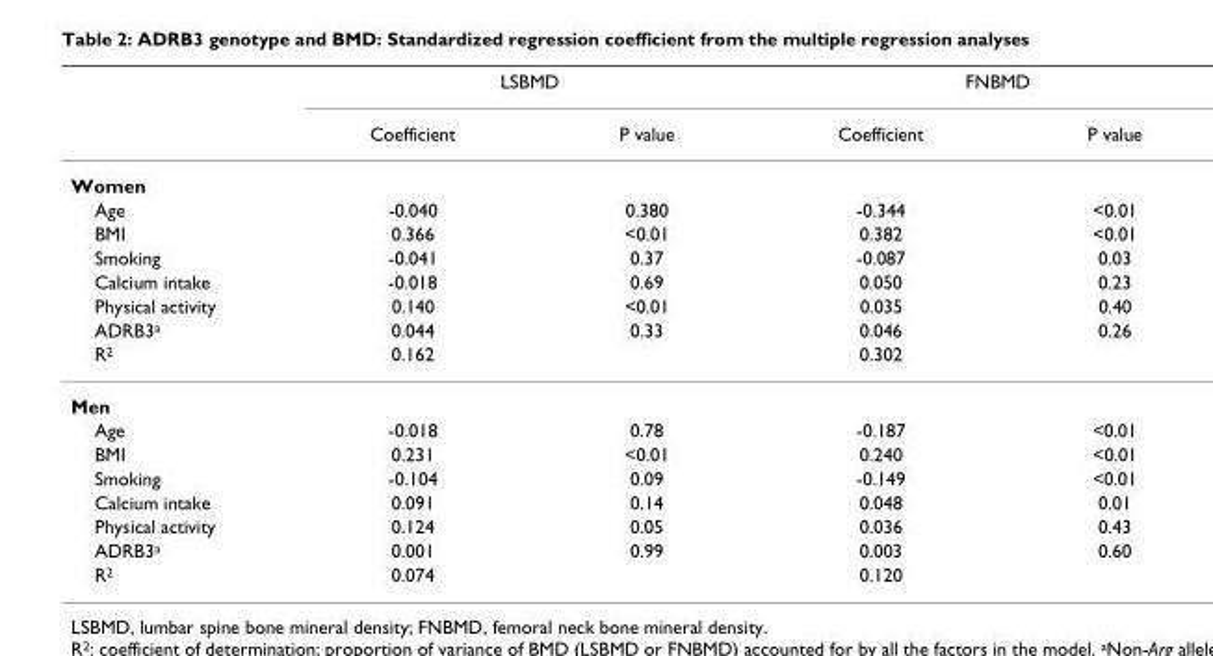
<table><thead><tr><td rowspan="2"></td><td colspan="2">LSBMD</td><td colspan="2">FNBMD</td></tr><tr><td>Coefficient</td><td>P value</td><td>Coefficient</td><td>P value</td></tr></thead><tbody><tr><td colspan="5">Women</td></tr><tr><td>Age</td><td>-0.040</td><td>0.380</td><td>-0.344</td><td>&lt;0.01</td></tr><tr><td>BMI</td><td>0.366</td><td>&lt;0.01</td><td>0.382</td><td>&lt;0.01</td></tr><tr><td>Smoking</td><td>-0.041</td><td>0.37</td><td>-0.087</td><td>0.03</td></tr><tr><td>Calcium intake</td><td>-0.018</td><td>0.69</td><td>0.050</td><td>0.23</td></tr><tr><td>Physical activity</td><td>0.140</td><td>&lt;0.01</td><td>0.035</td><td>0.40</td></tr><tr><td>ADRB3<sup>a</sup></td><td>0.044</td><td>0.33</td><td>0.046</td><td>0.26</td></tr><tr><td>R<sup>2</sup></td><td>0.162</td><td></td><td>0.302</td><td></td></tr><tr><td colspan="5">Men</td></tr><tr><td>Age</td><td>-0.018</td><td>0.78</td><td>-0.187</td><td>&lt;0.01</td></tr><tr><td>BMI</td><td>0.231</td><td>&lt;0.01</td><td>0.240</td><td>&lt;0.01</td></tr><tr><td>Smoking</td><td>-0.104</td><td>0.09</td><td>-0.149</td><td>&lt;0.01</td></tr><tr><td>Calcium intake</td><td>0.091</td><td>0.14</td><td>0.048</td><td>0.01</td></tr><tr><td>Physical activity</td><td>0.124</td><td>0.05</td><td>0.036</td><td>0.43</td></tr><tr><td>ADRB3<sup>a</sup></td><td>0.001</td><td>0.99</td><td>0.003</td><td>0.60</td></tr><tr><td>R<sup>2</sup></td><td>0.074</td><td></td><td>0.120</td><td></td></tr></tbody></table>